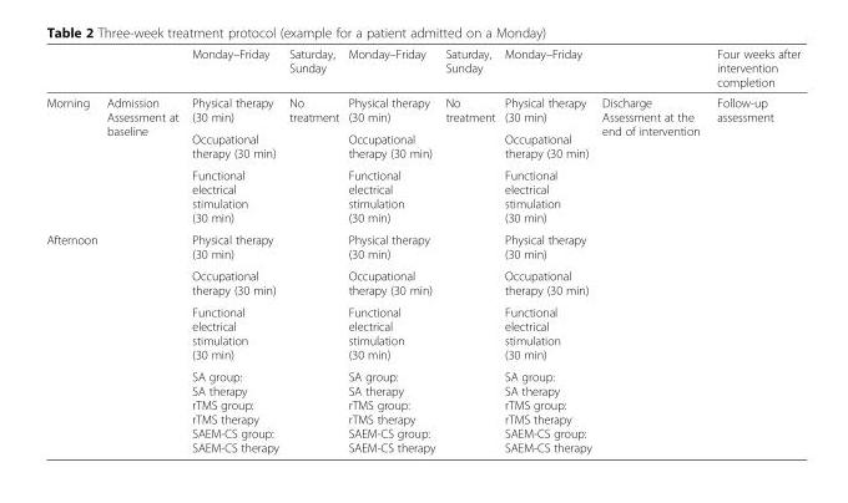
<table><thead><tr><td></td><td></td><td>Monday–Friday</td><td>Saturday, Sunday</td><td>Monday–Friday</td><td>Saturday, Sunday</td><td>Monday–Friday</td><td></td><td>Four weeks after intervention completion</td></tr></thead><tbody><tr><td rowspan="3">Morning</td><td rowspan="7">Admission Assessment at baseline</td><td>Physical therapy (30 min)</td><td rowspan="7">No treatment</td><td>Physical therapy (30 min)</td><td rowspan="7">No treatment</td><td>Physical therapy (30 min)</td><td rowspan="7">Discharge Assessment at the end of intervention</td><td rowspan="7">Follow-up assessment</td></tr><tr><td>Occupational therapy (30 min)</td><td>Occupational therapy (30 min)</td><td>Occupational therapy (30 min)</td></tr><tr><td>Functional electrical stimulation (30 min)</td><td>Functional electrical stimulation (30 min)</td><td>Functional electrical stimulation (30 min)</td></tr><tr><td rowspan="4">Afternoon</td><td>Physical therapy (30 min)</td><td>Physical therapy (30 min)</td><td>Physical therapy (30 min)</td></tr><tr><td>Occupational therapy (30 min)</td><td>Occupational therapy (30 min)</td><td>Occupational therapy (30 min)</td></tr><tr><td>Functional electrical stimulation (30 min)</td><td>Functional electrical stimulation (30 min)</td><td>Functional electrical stimulation (30 min)</td></tr><tr><td>SA group: SA therapy rTMS group: rTMS therapy SAEM-CS group: SAEM-CS therapy</td><td>SA group: SA therapy rTMS group: rTMS therapy SAEM-CS group: SAEM-CS therapy</td><td>SA group: SA therapy rTMS group: rTMS therapy SAEM-CS group: SAEM-CS therapy</td></tr></tbody></table>